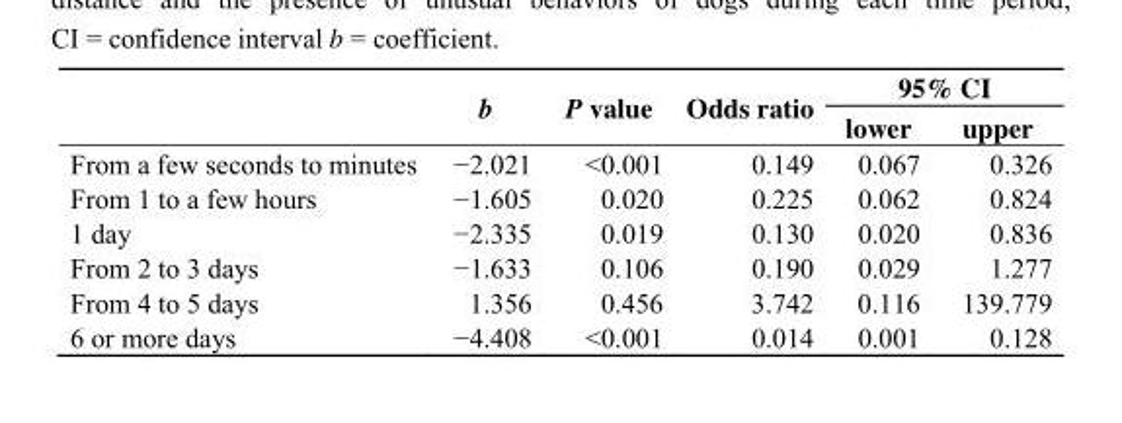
<table><thead><tr><td rowspan="2"></td><td rowspan="2">b</td><td rowspan="2">P value</td><td rowspan="2">Odds ratio</td><td colspan="2">95% CI</td></tr><tr><td>lower</td><td>upper</td></tr></thead><tbody><tr><td>From a few seconds to minutes</td><td>−2.021</td><td>&lt;0.001</td><td>0.149</td><td>0.067</td><td>0.326</td></tr><tr><td>From 1 to a few hours</td><td>−1.605</td><td>0.020</td><td>0.225</td><td>0.062</td><td>0.824</td></tr><tr><td>1 day</td><td>−2.335</td><td>0.019</td><td>0.130</td><td>0.020</td><td>0.836</td></tr><tr><td>From 2 to 3 days</td><td>−1.633</td><td>0.106</td><td>0.190</td><td>0.029</td><td>1.277</td></tr><tr><td>From 4 to 5 days</td><td>1.356</td><td>0.456</td><td>3.742</td><td>0.116</td><td>139.779</td></tr><tr><td>6 or more days</td><td>−4.408</td><td>&lt;0.001</td><td>0.014</td><td>0.001</td><td>0.128</td></tr></tbody></table>